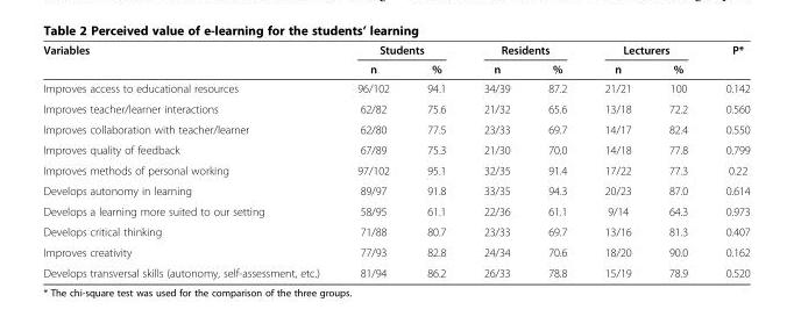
<table><thead><tr><td rowspan="2">Variables</td><td colspan="2">Students</td><td colspan="2">Residents</td><td colspan="2">Lecturers</td><td rowspan="2">P*</td></tr><tr><td>n</td><td>%</td><td>n</td><td>%</td><td>n</td><td>%</td></tr></thead><tbody><tr><td>Improves access to educational resources</td><td>96/102</td><td>94.1</td><td>34/39</td><td>87.2</td><td>21/21</td><td>100</td><td>0.142</td></tr><tr><td>Improves teacher/learner interactions</td><td>62/82</td><td>75.6</td><td>21/32</td><td>65.6</td><td>13/18</td><td>72.2</td><td>0.560</td></tr><tr><td>Improves collaboration with teacher/learner</td><td>62/80</td><td>77.5</td><td>23/33</td><td>69.7</td><td>14/17</td><td>82.4</td><td>0.550</td></tr><tr><td>Improves quality of feedback</td><td>67/89</td><td>75.3</td><td>21/30</td><td>70.0</td><td>14/18</td><td>77.8</td><td>0.799</td></tr><tr><td>Improves methods of personal working</td><td>97/102</td><td>95.1</td><td>32/35</td><td>91.4</td><td>17/22</td><td>77.3</td><td>0.22</td></tr><tr><td>Develops autonomy in learning</td><td>89/97</td><td>91.8</td><td>33/35</td><td>94.3</td><td>20/23</td><td>87.0</td><td>0.614</td></tr><tr><td>Develops a learning more suited to our setting</td><td>58/95</td><td>61.1</td><td>22/36</td><td>61.1</td><td>9/14</td><td>64.3</td><td>0.973</td></tr><tr><td>Develops critical thinking</td><td>71/88</td><td>80.7</td><td>23/33</td><td>69.7</td><td>13/16</td><td>81.3</td><td>0.407</td></tr><tr><td>Improves creativity</td><td>77/93</td><td>82.8</td><td>24/34</td><td>70.6</td><td>18/20</td><td>90.0</td><td>0.162</td></tr><tr><td>Develops transversal skills (autonomy, self-assessment, etc.)</td><td>81/94</td><td>86.2</td><td>26/33</td><td>78.8</td><td>15/19</td><td>78.9</td><td>0.520</td></tr></tbody></table>